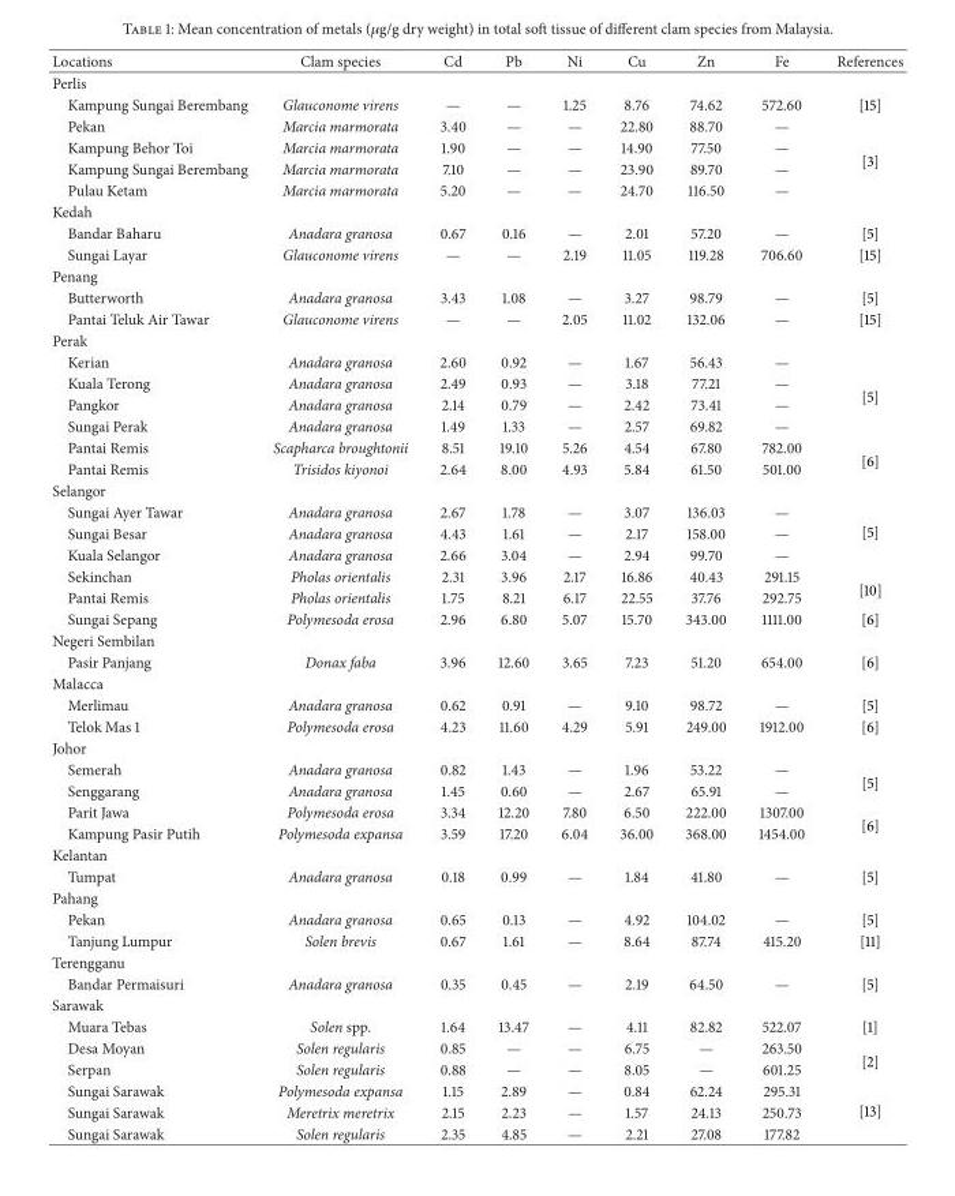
<table><thead><tr><td>Locations</td><td>Clam species</td><td>Cd</td><td>Pb</td><td>Ni</td><td>Cu</td><td>Zn</td><td>Fe</td><td>References</td></tr></thead><tbody><tr><td colspan="9">Perlis</td></tr><tr><td>Kampung Sungai Berembang</td><td>Glauconome virens</td><td>—</td><td>—</td><td>1.25</td><td>8.76</td><td>74.62</td><td>572.60</td><td>[15]</td></tr><tr><td>Pekan</td><td>Marcia marmorata</td><td>3.40</td><td>—</td><td>—</td><td>22.80</td><td>88.70</td><td>—</td><td rowspan="4">[3]</td></tr><tr><td>Kampung Behor Toi</td><td>Marcia marmorata</td><td>1.90</td><td>—</td><td>—</td><td>14.90</td><td>77.50</td><td>—</td></tr><tr><td>Kampung Sungai Berembang</td><td>Marcia marmorata</td><td>7.10</td><td>—</td><td>—</td><td>23.90</td><td>89.70</td><td>—</td></tr><tr><td>Pulau Ketam</td><td>Marcia marmorata</td><td>5.20</td><td>—</td><td>—</td><td>24.70</td><td>116.50</td><td>—</td></tr><tr><td colspan="9">Kedah</td></tr><tr><td>Bandar Baharu</td><td>Anadara granosa</td><td>0.67</td><td>0.16</td><td>—</td><td>2.01</td><td>57.20</td><td>—</td><td>[5]</td></tr><tr><td>Sungai Layar</td><td>Glauconome virens</td><td>—</td><td>—</td><td>2.19</td><td>11.05</td><td>119.28</td><td>706.60</td><td>[15]</td></tr><tr><td colspan="9">Penang</td></tr><tr><td>Butterworth</td><td>Anadara granosa</td><td>3.43</td><td>1.08</td><td>—</td><td>3.27</td><td>98.79</td><td>—</td><td>[5]</td></tr><tr><td>Pantai Teluk Air Tawar</td><td>Glauconome virens</td><td>—</td><td>—</td><td>2.05</td><td>11.02</td><td>132.06</td><td>—</td><td>[15]</td></tr><tr><td colspan="9">Perak</td></tr><tr><td>Kerian</td><td>Anadara granosa</td><td>2.60</td><td>0.92</td><td>—</td><td>1.67</td><td>56.43</td><td>—</td><td rowspan="4">[5]</td></tr><tr><td>Kuala Terong</td><td>Anadara granosa</td><td>2.49</td><td>0.93</td><td>—</td><td>3.18</td><td>77.21</td><td>—</td></tr><tr><td>Pangkor</td><td>Anadara granosa</td><td>2.14</td><td>0.79</td><td>—</td><td>2.42</td><td>73.41</td><td>—</td></tr><tr><td>Sungai Perak</td><td>Anadara granosa</td><td>1.49</td><td>1.33</td><td>—</td><td>2.57</td><td>69.82</td><td>—</td></tr><tr><td>Pantai Remis</td><td>Scapharca broughtonii</td><td>8.51</td><td>19.10</td><td>5.26</td><td>4.54</td><td>67.80</td><td>782.00</td><td rowspan="2">[6]</td></tr><tr><td>Pantai Remis</td><td>Trisidos kiyonoi</td><td>2.64</td><td>8.00</td><td>4.93</td><td>5.84</td><td>61.50</td><td>501.00</td></tr><tr><td colspan="9">Selangor</td></tr><tr><td>Sungai Ayer Tawar</td><td>Anadara granosa</td><td>2.67</td><td>1.78</td><td>—</td><td>3.07</td><td>136.03</td><td>—</td><td rowspan="3">[5]</td></tr><tr><td>Sungai Besar</td><td>Anadara granosa</td><td>4.43</td><td>1.61</td><td>—</td><td>2.17</td><td>158.00</td><td>—</td></tr><tr><td>Kuala Selangor</td><td>Anadara granosa</td><td>2.66</td><td>3.04</td><td>—</td><td>2.94</td><td>99.70</td><td>—</td></tr><tr><td>Sekinchan</td><td>Pholas orientalis</td><td>2.31</td><td>3.96</td><td>2.17</td><td>16.86</td><td>40.43</td><td>291.15</td><td rowspan="2">[10]</td></tr><tr><td>Pantai Remis</td><td>Pholas orientalis</td><td>1.75</td><td>8.21</td><td>6.17</td><td>22.55</td><td>37.76</td><td>292.75</td></tr><tr><td>Sungai Sepang</td><td>Polymesoda erosa</td><td>2.96</td><td>6.80</td><td>5.07</td><td>15.70</td><td>343.00</td><td>1111.00</td><td>[6]</td></tr><tr><td colspan="9">Negeri Sembilan</td></tr><tr><td>Pasir Panjang</td><td>Donax faba</td><td>3.96</td><td>12.60</td><td>3.65</td><td>7.23</td><td>51.20</td><td>654.00</td><td>[6]</td></tr><tr><td colspan="9">Malacca</td></tr><tr><td>Merlimau</td><td>Anadara granosa</td><td>0.62</td><td>0.91</td><td>—</td><td>9.10</td><td>98.72</td><td>—</td><td>[5]</td></tr><tr><td>Telok Mas 1</td><td>Polymesoda erosa</td><td>4.23</td><td>11.60</td><td>4.29</td><td>5.91</td><td>249.00</td><td>1912.00</td><td>[6]</td></tr><tr><td colspan="9">Johor</td></tr><tr><td>Semerah</td><td>Anadara granosa</td><td>0.82</td><td>1.43</td><td>—</td><td>1.96</td><td>53.22</td><td>—</td><td rowspan="2">[5]</td></tr><tr><td>Senggarang</td><td>Anadara granosa</td><td>1.45</td><td>0.60</td><td>—</td><td>2.67</td><td>65.91</td><td>—</td></tr><tr><td>Parit Jawa</td><td>Polymesoda erosa</td><td>3.34</td><td>12.20</td><td>7.80</td><td>6.50</td><td>222.00</td><td>1307.00</td><td rowspan="2">[6]</td></tr><tr><td>Kampung Pasir Putih</td><td>Polymesoda expansa</td><td>3.59</td><td>17.20</td><td>6.04</td><td>36.00</td><td>368.00</td><td>1454.00</td></tr><tr><td colspan="9">Kelantan</td></tr><tr><td>Tumpat</td><td>Anadara granosa</td><td>0.18</td><td>0.99</td><td>—</td><td>1.84</td><td>41.80</td><td>—</td><td>[5]</td></tr><tr><td colspan="9">Pahang</td></tr><tr><td>Pekan</td><td>Anadara granosa</td><td>0.65</td><td>0.13</td><td>—</td><td>4.92</td><td>104.02</td><td>—</td><td>[5]</td></tr><tr><td>Tanjung Lumpur</td><td>Solen brevis</td><td>0.67</td><td>1.61</td><td>—</td><td>8.64</td><td>87.74</td><td>415.20</td><td>[11]</td></tr><tr><td colspan="9">Terengganu</td></tr><tr><td>Bandar Permaisuri</td><td>Anadara granosa</td><td>0.35</td><td>0.45</td><td>—</td><td>2.19</td><td>64.50</td><td>—</td><td>[5]</td></tr><tr><td colspan="9">Sarawak</td></tr><tr><td>Muara Tebas</td><td>Solen spp.</td><td>1.64</td><td>13.47</td><td>—</td><td>4.11</td><td>82.82</td><td>522.07</td><td>[1]</td></tr><tr><td>Desa Moyan</td><td>Solen regularis</td><td>0.85</td><td>—</td><td>—</td><td>6.75</td><td>—</td><td>263.50</td><td rowspan="2">[2]</td></tr><tr><td>Serpan</td><td>Solen regularis</td><td>0.88</td><td>—</td><td>—</td><td>8.05</td><td>—</td><td>601.25</td></tr><tr><td>Sungai Sarawak</td><td>Polymesoda expansa</td><td>1.15</td><td>2.89</td><td>—</td><td>0.84</td><td>62.24</td><td>295.31</td><td rowspan="3">[13]</td></tr><tr><td>Sungai Sarawak</td><td>Meretrix meretrix</td><td>2.15</td><td>2.23</td><td>—</td><td>1.57</td><td>24.13</td><td>250.73</td></tr><tr><td>Sungai Sarawak</td><td>Solen regularis</td><td>2.35</td><td>4.85</td><td>—</td><td>2.21</td><td>27.08</td><td>177.82</td></tr></tbody></table>